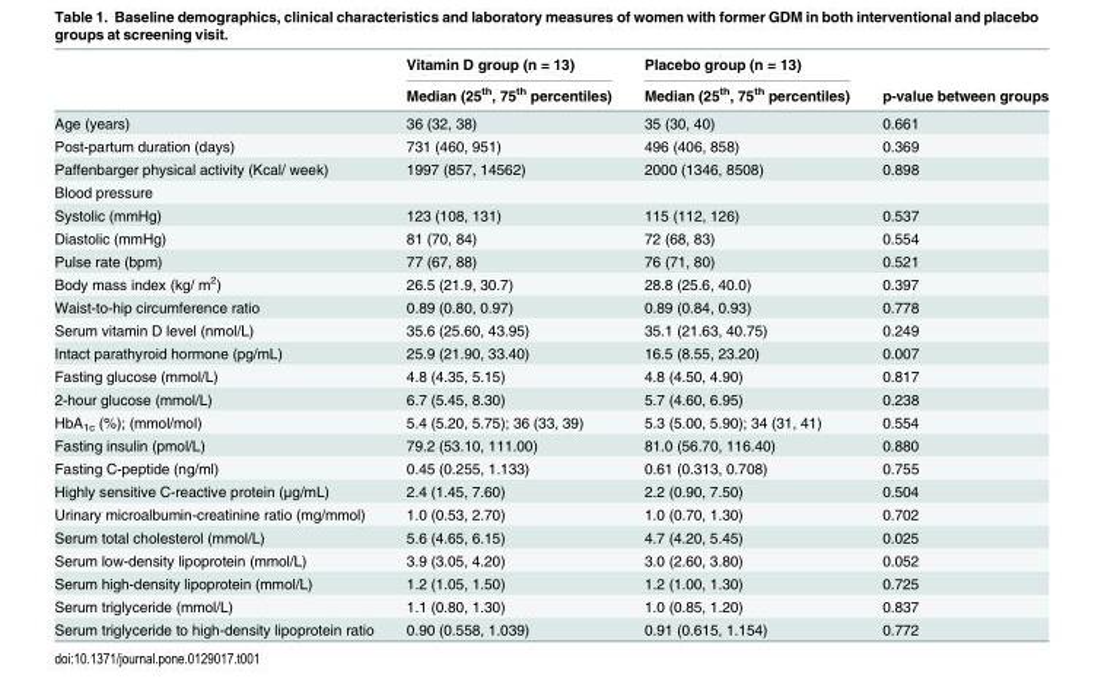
<table><thead><tr><td rowspan="2"></td><td rowspan="2">Vitamin D group (n = 13) Median (25<sup>th</sup>, 75<sup>th</sup> percentiles)</td><td rowspan="2">Placebo group (n = 13) Median (25<sup>th</sup>, 75<sup>th</sup> percentiles)</td><td rowspan="2">p-value between groups</td></tr><tr></tr></thead><tbody><tr><td>Age (years)</td><td>36 (32, 38)</td><td>35 (30, 40)</td><td>0.661</td></tr><tr><td>Post-partum duration (days)</td><td>731 (460, 951)</td><td>496 (406, 858)</td><td>0.369</td></tr><tr><td>Paffenbarger physical activity (Kcal/ week)</td><td>1997 (857, 14562)</td><td>2000 (1346, 8508)</td><td>0.898</td></tr><tr><td colspan="4">Blood pressure</td></tr><tr><td>Systolic (mmHg)</td><td>123 (108, 131)</td><td>115 (112, 126)</td><td>0.537</td></tr><tr><td>Diastolic (mmHg)</td><td>81 (70, 84)</td><td>72 (68, 83)</td><td>0.554</td></tr><tr><td>Pulse rate (bpm)</td><td>77 (67, 88)</td><td>76 (71, 80)</td><td>0.521</td></tr><tr><td>Body mass index (kg/ m<sup>2</sup>)</td><td>26.5 (21.9, 30.7)</td><td>28.8 (25.6, 40.0)</td><td>0.397</td></tr><tr><td>Waist-to-hip circumference ratio</td><td>0.89 (0.80, 0.97)</td><td>0.89 (0.84, 0.93)</td><td>0.778</td></tr><tr><td>Serum vitamin D level (nmol/L)</td><td>35.6 (25.60, 43.95)</td><td>35.1 (21.63, 40.75)</td><td>0.249</td></tr><tr><td>Intact parathyroid hormone (pg/mL)</td><td>25.9 (21.90, 33.40)</td><td>16.5 (8.55, 23.20)</td><td>0.007</td></tr><tr><td>Fasting glucose (mmol/L)</td><td>4.8 (4.35, 5.15)</td><td>4.8 (4.50, 4.90)</td><td>0.817</td></tr><tr><td>2-hour glucose (mmol/L)</td><td>6.7 (5.45, 8.30)</td><td>5.7 (4.60, 6.95)</td><td>0.238</td></tr><tr><td>HbA<sub>1c</sub> (%); (mmol/mol)</td><td>5.4 (5.20, 5.75); 36 (33, 39)</td><td>5.3 (5.00, 5.90); 34 (31, 41)</td><td>0.554</td></tr><tr><td>Fasting insulin (pmol/L)</td><td>79.2 (53.10, 111.00)</td><td>81.0 (56.70, 116.40)</td><td>0.880</td></tr><tr><td>Fasting C-peptide (ng/ml)</td><td>0.45 (0.255, 1.133)</td><td>0.61 (0.313, 0.708)</td><td>0.755</td></tr><tr><td>Highly sensitive C-reactive protein (μg/mL)</td><td>2.4 (1.45, 7.60)</td><td>2.2 (0.90, 7.50)</td><td>0.504</td></tr><tr><td>Urinary microalbumin-creatinine ratio (mg/mmol)</td><td>1.0 (0.53, 2.70)</td><td>1.0 (0.70, 1.30)</td><td>0.702</td></tr><tr><td>Serum total cholesterol (mmol/L)</td><td>5.6 (4.65, 6.15)</td><td>4.7 (4.20, 5.45)</td><td>0.025</td></tr><tr><td>Serum low-density lipoprotein (mmol/L)</td><td>3.9 (3.05, 4.20)</td><td>3.0 (2.60, 3.80)</td><td>0.052</td></tr><tr><td>Serum high-density lipoprotein (mmol/L)</td><td>1.2 (1.05, 1.50)</td><td>1.2 (1.00, 1.30)</td><td>0.725</td></tr><tr><td>Serum triglyceride (mmol/L)</td><td>1.1 (0.80, 1.30)</td><td>1.0 (0.85, 1.20)</td><td>0.837</td></tr><tr><td>Serum triglyceride to high-density lipoprotein ratio</td><td>0.90 (0.558, 1.039)</td><td>0.91 (0.615, 1.154)</td><td>0.772</td></tr></tbody></table>